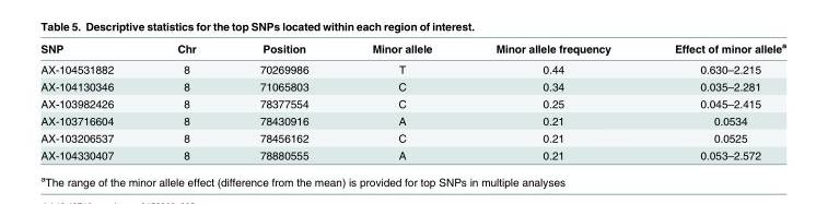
<table><thead><tr><td>SNP</td><td>Chr</td><td>Position</td><td>Minor allele</td><td>Minor allele frequency</td><td>Effect of minor allele<sup>a</sup></td></tr></thead><tbody><tr><td>AX-104531882</td><td>8</td><td>70269986</td><td>T</td><td>0.44</td><td>0.630–2.215</td></tr><tr><td>AX-104130346</td><td>8</td><td>71065803</td><td>C</td><td>0.34</td><td>0.035–2.281</td></tr><tr><td>AX-103982426</td><td>8</td><td>78377554</td><td>C</td><td>0.25</td><td>0.045–2.415</td></tr><tr><td>AX-103716604</td><td>8</td><td>78430916</td><td>A</td><td>0.21</td><td>0.0534</td></tr><tr><td>AX-103206537</td><td>8</td><td>78456162</td><td>C</td><td>0.21</td><td>0.0525</td></tr><tr><td>AX-104330407</td><td>8</td><td>78880555</td><td>A</td><td>0.21</td><td>0.053–2.572</td></tr></tbody></table>